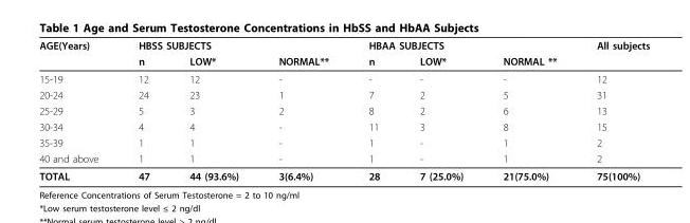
<table><thead><tr><td rowspan="2">AGE(Years)</td><td colspan="3">HBSS SUBJECTS</td><td colspan="3">HBAA SUBJECTS</td><td rowspan="2">All subjects</td></tr><tr><td>n</td><td>LOW*</td><td>NORMAL**</td><td>n</td><td>LOW*</td><td>NORMAL **</td></tr></thead><tbody><tr><td>15-19</td><td>12</td><td>12</td><td>-</td><td>-</td><td>-</td><td>-</td><td>12</td></tr><tr><td>20-24</td><td>24</td><td>23</td><td>1</td><td>7</td><td>2</td><td>5</td><td>31</td></tr><tr><td>25-29</td><td>5</td><td>3</td><td>2</td><td>8</td><td>2</td><td>6</td><td>13</td></tr><tr><td>30-34</td><td>4</td><td>4</td><td>-</td><td>11</td><td>3</td><td>8</td><td>15</td></tr><tr><td>35-39</td><td>1</td><td>1</td><td>-</td><td>1</td><td>-</td><td>1</td><td>2</td></tr><tr><td>40 and above</td><td>1</td><td>1</td><td>-</td><td>1</td><td>-</td><td>1</td><td>2</td></tr><tr><td>TOTAL</td><td>47</td><td>44 (93.6%)</td><td>3(6.4%)</td><td>28</td><td>7 (25.0%)</td><td>21(75.0%)</td><td>75(100%)</td></tr></tbody></table>